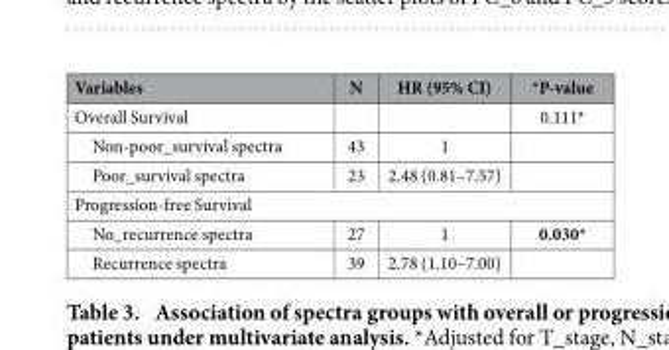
<table><thead><tr><td>Variables</td><td>N</td><td>HR (95% CI)</td><td>*P-value</td></tr></thead><tbody><tr><td>Overall Survival</td><td></td><td></td><td>0.111*</td></tr><tr><td>Non-poor_survival spectra</td><td>43</td><td>1</td><td></td></tr><tr><td>Poor_survival spectra</td><td>23</td><td>2.48 (0.81–7.57)</td><td></td></tr><tr><td colspan="4">Progression-free Survival</td></tr><tr><td>No_recurrence spectra</td><td>27</td><td>1</td><td>0.030*</td></tr><tr><td>Recurrence spectra</td><td>39</td><td>2.78 (1.10–7.00)</td><td></td></tr></tbody></table>